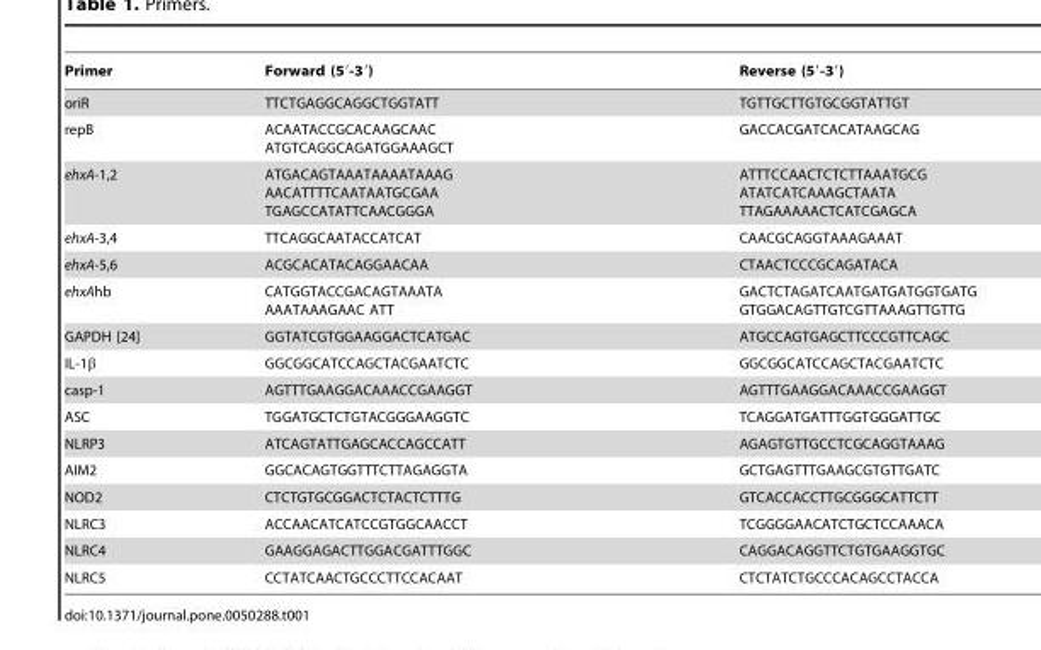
<table><thead><tr><td>Primer</td><td>Forward (5′-3′)</td><td>Reverse (5′-3′)</td></tr></thead><tbody><tr><td>oriR</td><td>TTCTGAGGCAGGCTGGTATT</td><td>TGTTGCTTGTGCGGTATTGT</td></tr><tr><td>repB</td><td>ACAATACCGCACAAGCAAC ATGTCAGGCAGATGGAAAGCT</td><td>GACCACGATCACATAAGCAG</td></tr><tr><td>ehxA-1,2</td><td>ATGACAGTAAATAAAATAAAG AACATTTTCAATAATGCGAA TGAGCCATATTCAACGGGA</td><td>ATTTCCAACTCTCTTAAATGCG ATATCATCAAAGCTAATA TTAGAAAAACTCATCGAGCA</td></tr><tr><td>ehxA-3,4</td><td>TTCAGGCAATACCATCAT</td><td>CAACGCAGGTAAAGAAAT</td></tr><tr><td>ehxA-5,6</td><td>ACGCACATACAGGAACAA</td><td>CTAACTCCCGCAGATACA</td></tr><tr><td>ehxAhb</td><td>CATGGTACCGACAGTAAATA AAATAAAGAAC ATT</td><td>GACTCTAGATCAATGATGATGGTGATG GTGGACAGTTGTCGTTAAAGTTGTTG</td></tr><tr><td>GAPDH [24]</td><td>GGTATCGTGGAAGGACTCATGAC</td><td>ATGCCAGTGAGCTTCCCGTTCAGC</td></tr><tr><td>IL-1β</td><td>GGCGGCATCCAGCTACGAATCTC</td><td>GGCGGCATCCAGCTACGAATCTC</td></tr><tr><td>casp-1</td><td>AGTTTGAAGGACAAACCGAAGGT</td><td>AGTTTGAAGGACAAACCGAAGGT</td></tr><tr><td>ASC</td><td>TGGATGCTCTGTACGGGAAGGTC</td><td>TCAGGATGATTTGGTGGGATTGC</td></tr><tr><td>NLRP3</td><td>ATCAGTATTGAGCACCAGCCATT</td><td>AGAGTGTTGCCTCGCAGGTAAAG</td></tr><tr><td>AIM2</td><td>GGCACAGTGGTTTCTTAGAGGTA</td><td>GCTGAGTTTGAAGCGTGTTGATC</td></tr><tr><td>NOD2</td><td>CTCTGTGCGGACTCTACTCTTTG</td><td>GTCACCACCTTGCGGGCATTCTT</td></tr><tr><td>NLRC3</td><td>ACCAACATCATCCGTGGCAACCT</td><td>TCGGGGAACATCTGCTCCAAACA</td></tr><tr><td>NLRC4</td><td>GAAGGAGACTTGGACGATTTGGC</td><td>CAGGACAGGTTCTGTGAAGGTGC</td></tr><tr><td>NLRC5</td><td>CCTATCAACTGCCCTTCCACAAT</td><td>CTCTATCTGCCCACAGCCTACCA</td></tr></tbody></table>